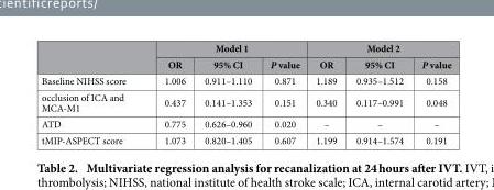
<table><thead><tr><td rowspan="2"></td><td colspan="3">Model 1</td><td colspan="3">Model 2</td></tr><tr><td>OR</td><td>95% CI</td><td>P value</td><td>OR</td><td>95% CI</td><td>P value</td></tr></thead><tbody><tr><td>Baseline NIHSS score</td><td>1.006</td><td>0.911–1.110</td><td>0.871</td><td>1.189</td><td>0.935–1.512</td><td>0.158</td></tr><tr><td>occlusion of ICA and MCA-M1</td><td>0.437</td><td>0.141–1.353</td><td>0.151</td><td>0.340</td><td>0.117–0.991</td><td>0.048</td></tr><tr><td>ATD</td><td>0.775</td><td>0.626–0.960</td><td>0.020</td><td>–</td><td>–</td><td>–</td></tr><tr><td>tMIP-ASPECT score</td><td>1.073</td><td>0.820–1.405</td><td>0.607</td><td>1.199</td><td>0.914–1.574</td><td>0.191</td></tr></tbody></table>